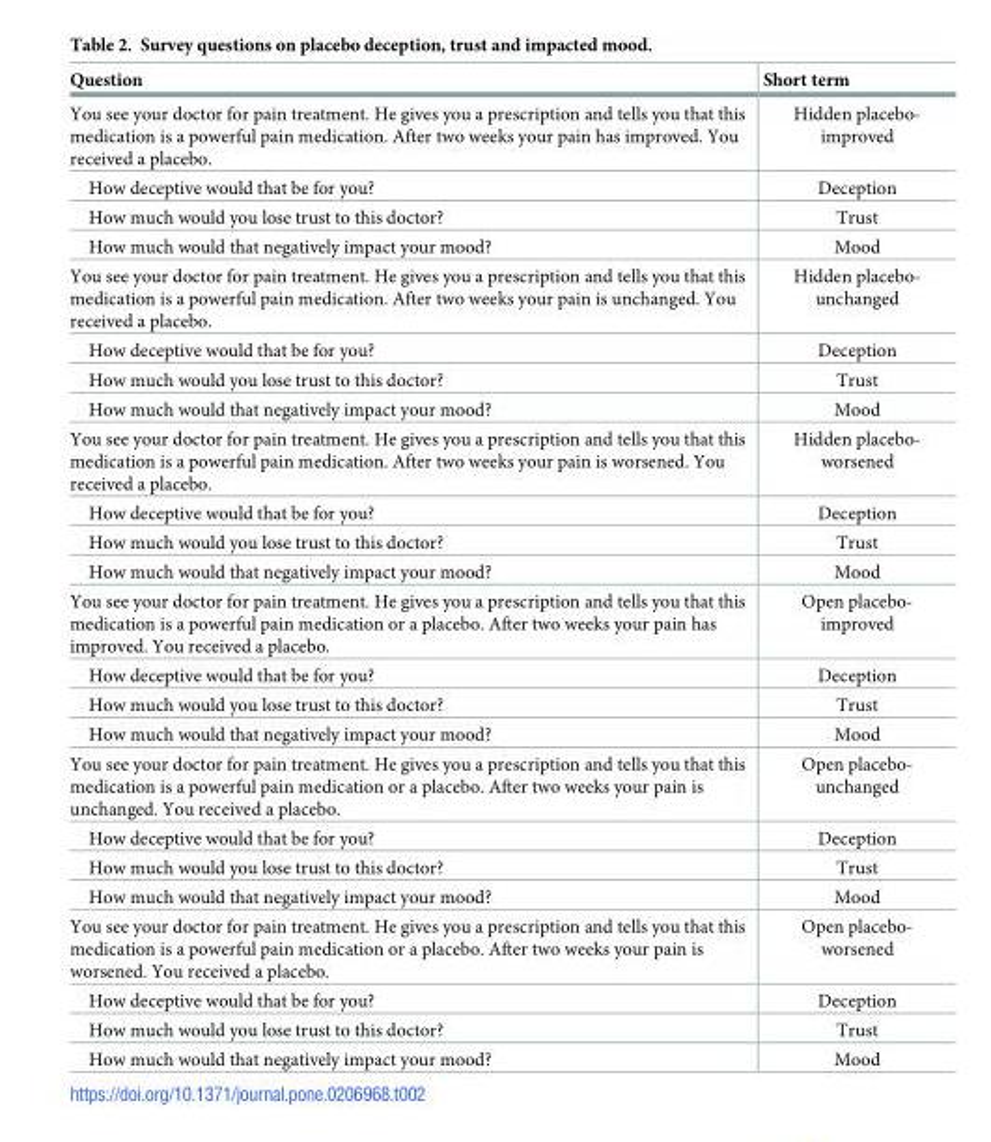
<table><thead><tr><td>Question</td><td>Short term</td></tr></thead><tbody><tr><td>You see your doctor for pain treatment. He gives you a prescription and tells you that this medication is a powerful pain medication. After two weeks your pain has improved. You received a placebo.</td><td>Hidden placebo- improved</td></tr><tr><td>How deceptive would that be for you?</td><td>Deception</td></tr><tr><td>How much would you lose trust to this doctor?</td><td>Trust</td></tr><tr><td>How much would that negatively impact your mood?</td><td>Mood</td></tr><tr><td>You see your doctor for pain treatment. He gives you a prescription and tells you that this medication is a powerful pain medication. After two weeks your pain is unchanged. You received a placebo.</td><td>Hidden placebo- unchanged</td></tr><tr><td>How deceptive would that be for you?</td><td>Deception</td></tr><tr><td>How much would you lose trust to this doctor?</td><td>Trust</td></tr><tr><td>How much would that negatively impact your mood?</td><td>Mood</td></tr><tr><td>You see your doctor for pain treatment. He gives you a prescription and tells you that this medication is a powerful pain medication. After two weeks your pain is worsened. You received a placebo.</td><td>Hidden placebo- worsened</td></tr><tr><td>How deceptive would that be for you?</td><td>Deception</td></tr><tr><td>How much would you lose trust to this doctor?</td><td>Trust</td></tr><tr><td>How much would that negatively impact your mood?</td><td>Mood</td></tr><tr><td>You see your doctor for pain treatment. He gives you a prescription and tells you that this medication is a powerful pain medication or a placebo. After two weeks your pain has improved. You received a placebo.</td><td>Open placebo- improved</td></tr><tr><td>How deceptive would that be for you?</td><td>Deception</td></tr><tr><td>How much would you lose trust to this doctor?</td><td>Trust</td></tr><tr><td>How much would that negatively impact your mood?</td><td>Mood</td></tr><tr><td>You see your doctor for pain treatment. He gives you a prescription and tells you that this medication is a powerful pain medication or a placebo. After two weeks your pain is unchanged. You received a placebo.</td><td>Open placebo- unchanged</td></tr><tr><td>How deceptive would that be for you?</td><td>Deception</td></tr><tr><td>How much would you lose trust to this doctor?</td><td>Trust</td></tr><tr><td>How much would that negatively impact your mood?</td><td>Mood</td></tr><tr><td>You see your doctor for pain treatment. He gives you a prescription and tells you that this medication is a powerful pain medication or a placebo. After two weeks your pain is worsened. You received a placebo.</td><td>Open placebo- worsened</td></tr><tr><td>How deceptive would that be for you?</td><td>Deception</td></tr><tr><td>How much would you lose trust to this doctor?</td><td>Trust</td></tr><tr><td>How much would that negatively impact your mood?</td><td>Mood</td></tr></tbody></table>